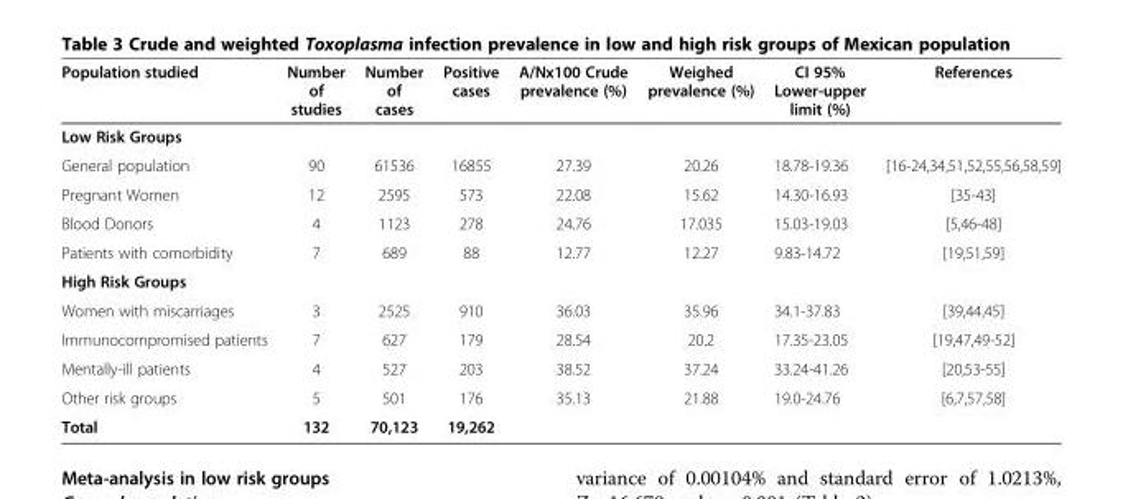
<table><thead><tr><td>Population studied</td><td>Number of studies</td><td>Number of cases</td><td>Positive cases</td><td>A/Nx100 Crude prevalence (%)</td><td>Weighed prevalence (%)</td><td>CI 95% Lower-upper limit (%)</td><td>References</td></tr></thead><tbody><tr><td colspan="8">Low Risk Groups</td></tr><tr><td>General population</td><td>90</td><td>61536</td><td>16855</td><td>27.39</td><td>20.26</td><td>18.78-19.36</td><td>[16-24,34,51,52,55,56,58,59]</td></tr><tr><td>Pregnant Women</td><td>12</td><td>2595</td><td>573</td><td>22.08</td><td>15.62</td><td>14.30-16.93</td><td>[35-43]</td></tr><tr><td>Blood Donors</td><td>4</td><td>1123</td><td>278</td><td>24.76</td><td>17.035</td><td>15.03-19.03</td><td>[5,46-48]</td></tr><tr><td>Patients with comorbidity</td><td>7</td><td>689</td><td>88</td><td>12.77</td><td>12.27</td><td>9.83-14.72</td><td>[19,51,59]</td></tr><tr><td colspan="8">High Risk Groups</td></tr><tr><td>Women with miscarriages</td><td>3</td><td>2525</td><td>910</td><td>36.03</td><td>35.96</td><td>34.1-37.83</td><td>[39,44,45]</td></tr><tr><td>Immunocompromised patients</td><td>7</td><td>627</td><td>179</td><td>28.54</td><td>20.2</td><td>17.35-23.05</td><td>[19,47,49-52]</td></tr><tr><td>Mentally-ill patients</td><td>4</td><td>527</td><td>203</td><td>38.52</td><td>37.24</td><td>33.24-41.26</td><td>[20,53-55]</td></tr><tr><td>Other risk groups</td><td>5</td><td>501</td><td>176</td><td>35.13</td><td>21.88</td><td>19.0-24.76</td><td>[6,7,57,58]</td></tr><tr><td>Total</td><td>132</td><td>70,123</td><td>19,262</td><td colspan="2"></td><td colspan="2"></td></tr></tbody></table>